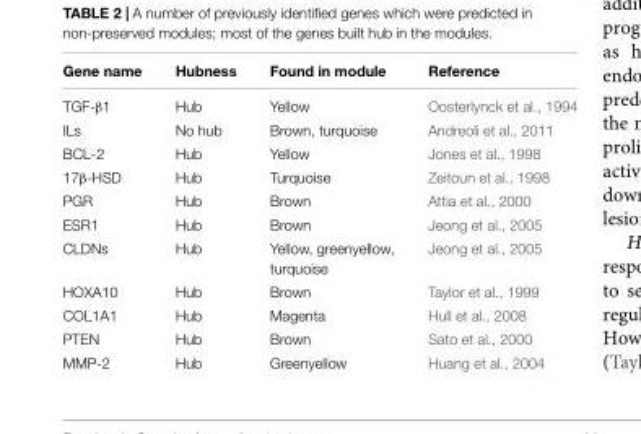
<table><thead><tr><td>Gene name</td><td>Hubness</td><td>Found in module</td><td>Reference</td></tr></thead><tbody><tr><td>TGF-β1</td><td>Hub</td><td>Yellow</td><td>Oosterlynck et al., 1994</td></tr><tr><td>ILs</td><td>No hub</td><td>Brown, turquoise</td><td>Andreoli et al., 2011</td></tr><tr><td>BCL-2</td><td>Hub</td><td>Yellow</td><td>Jones et al., 1998</td></tr><tr><td>17β-HSD</td><td>Hub</td><td>Turquoise</td><td>Zeitoun et al., 1998</td></tr><tr><td>PGR</td><td>Hub</td><td>Brown</td><td>Attia et al., 2000</td></tr><tr><td>ESR1</td><td>Hub</td><td>Brown</td><td>Jeong et al., 2005</td></tr><tr><td>CLDNs</td><td>Hub</td><td>Yellow, greenyellow, turquoise</td><td>Jeong et al., 2005</td></tr><tr><td>HOXA10</td><td>Hub</td><td>Brown</td><td>Taylor et al., 1999</td></tr><tr><td>COL1A1</td><td>Hub</td><td>Magenta</td><td>Hull et al., 2008</td></tr><tr><td>PTEN</td><td>Hub</td><td>Brown</td><td>Sato et al., 2000</td></tr><tr><td>MMP-2</td><td>Hub</td><td>Greenyellow</td><td>Huang et al., 2004</td></tr></tbody></table>